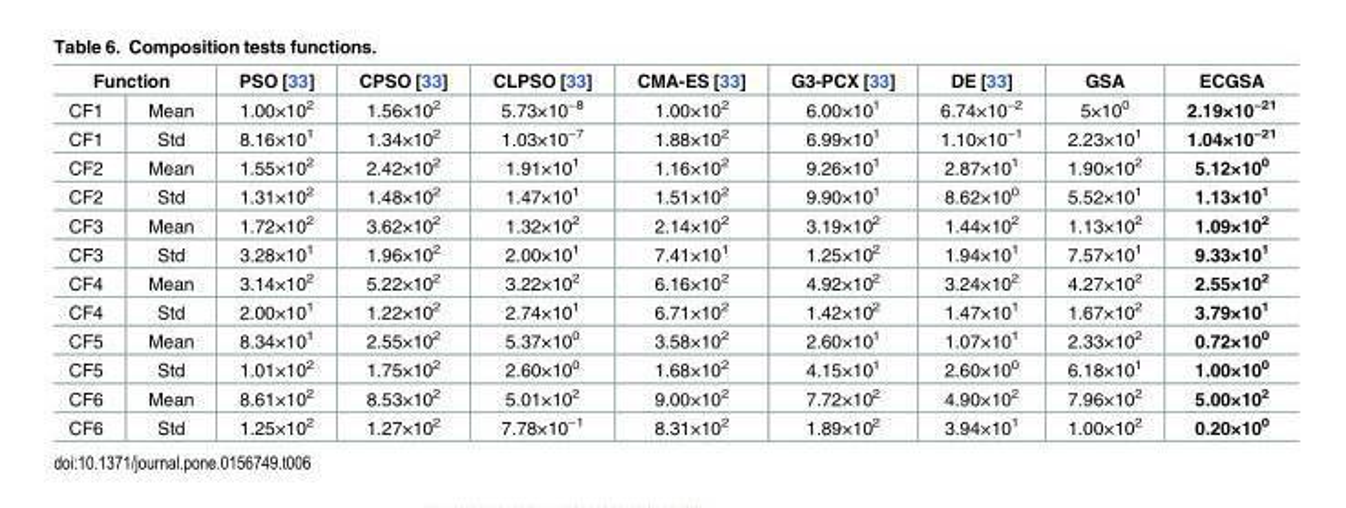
<table><thead><tr><td colspan="2">Function</td><td rowspan="2">PSO [33] 1.00×10<sup>2</sup></td><td rowspan="2">CPSO [33] 1.56×10<sup>2</sup></td><td rowspan="2">CLPSO [33] 5.73×10<sup>−8</sup></td><td rowspan="2">CMA-ES [33] 1.00×10<sup>2</sup></td><td rowspan="2">G3-PCX [33] 6.00×10<sup>1</sup></td><td rowspan="2">DE [33] 6.74×10<sup>−2</sup></td><td rowspan="2">GSA 5×10<sup>0</sup></td><td rowspan="2">ECGSA 2.19×10<sup>−21</sup></td></tr><tr><td>CF1</td><td>Mean</td></tr></thead><tbody><tr><td>CF1</td><td>Std</td><td>8.16×10<sup>1</sup></td><td>1.34×10<sup>2</sup></td><td>1.03×10<sup>−7</sup></td><td>1.88×10<sup>2</sup></td><td>6.99×10<sup>1</sup></td><td>1.10×10<sup>−1</sup></td><td>2.23×10<sup>1</sup></td><td>1.04×10<sup>−21</sup></td></tr><tr><td>CF2</td><td>Mean</td><td>1.55×10<sup>2</sup></td><td>2.42×10<sup>2</sup></td><td>1.91×10<sup>1</sup></td><td>1.16×10<sup>2</sup></td><td>9.26×10<sup>1</sup></td><td>2.87×10<sup>1</sup></td><td>1.90×10<sup>2</sup></td><td>5.12×10<sup>0</sup></td></tr><tr><td>CF2</td><td>Std</td><td>1.31×10<sup>2</sup></td><td>1.48×10<sup>2</sup></td><td>1.47×10<sup>1</sup></td><td>1.51×10<sup>2</sup></td><td>9.90×10<sup>1</sup></td><td>8.62×10<sup>0</sup></td><td>5.52×10<sup>1</sup></td><td>1.13×10<sup>1</sup></td></tr><tr><td>CF3</td><td>Mean</td><td>1.72×10<sup>2</sup></td><td>3.62×10<sup>2</sup></td><td>1.32×10<sup>2</sup></td><td>2.14×10<sup>2</sup></td><td>3.19×10<sup>2</sup></td><td>1.44×10<sup>2</sup></td><td>1.13×10<sup>2</sup></td><td>1.09×10<sup>2</sup></td></tr><tr><td>CF3</td><td>Std</td><td>3.28×10<sup>1</sup></td><td>1.96×10<sup>2</sup></td><td>2.00×10<sup>1</sup></td><td>7.41×10<sup>1</sup></td><td>1.25×10<sup>2</sup></td><td>1.94×10<sup>1</sup></td><td>7.57×10<sup>1</sup></td><td>9.33×10<sup>1</sup></td></tr><tr><td>CF4</td><td>Mean</td><td>3.14×10<sup>2</sup></td><td>5.22×10<sup>2</sup></td><td>3.22×10<sup>2</sup></td><td>6.16×10<sup>2</sup></td><td>4.92×10<sup>2</sup></td><td>3.24×10<sup>2</sup></td><td>4.27×10<sup>2</sup></td><td>2.55×10<sup>2</sup></td></tr><tr><td>CF4</td><td>Std</td><td>2.00×10<sup>1</sup></td><td>1.22×10<sup>2</sup></td><td>2.74×10<sup>1</sup></td><td>6.71×10<sup>2</sup></td><td>1.42×10<sup>2</sup></td><td>1.47×10<sup>1</sup></td><td>1.67×10<sup>2</sup></td><td>3.79×10<sup>1</sup></td></tr><tr><td>CF5</td><td>Mean</td><td>8.34×10<sup>1</sup></td><td>2.55×10<sup>2</sup></td><td>5.37×10<sup>0</sup></td><td>3.58×10<sup>2</sup></td><td>2.60×10<sup>1</sup></td><td>1.07×10<sup>1</sup></td><td>2.33×10<sup>2</sup></td><td>0.72×10<sup>0</sup></td></tr><tr><td>CF5</td><td>Std</td><td>1.01×10<sup>2</sup></td><td>1.75×10<sup>2</sup></td><td>2.60×10<sup>0</sup></td><td>1.68×10<sup>2</sup></td><td>4.15×10<sup>1</sup></td><td>2.60×10<sup>0</sup></td><td>6.18×10<sup>1</sup></td><td>1.00×10<sup>0</sup></td></tr><tr><td>CF6</td><td>Mean</td><td>8.61×10<sup>2</sup></td><td>8.53×10<sup>2</sup></td><td>5.01×10<sup>2</sup></td><td>9.00×10<sup>2</sup></td><td>7.72×10<sup>2</sup></td><td>4.90×10<sup>2</sup></td><td>7.96×10<sup>2</sup></td><td>5.00×10<sup>2</sup></td></tr><tr><td>CF6</td><td>Std</td><td>1.25×10<sup>2</sup></td><td>1.27×10<sup>2</sup></td><td>7.78×10<sup>−1</sup></td><td>8.31×10<sup>2</sup></td><td>1.89×10<sup>2</sup></td><td>3.94×10<sup>1</sup></td><td>1.00×10<sup>2</sup></td><td>0.20×10<sup>0</sup></td></tr></tbody></table>